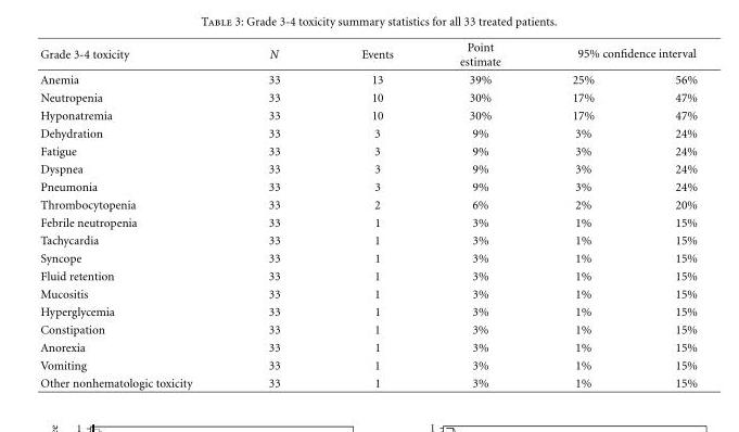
<table><thead><tr><td rowspan="2">Grade 3-4 toxicity Anemia</td><td rowspan="2">N 33</td><td rowspan="2">Events 13</td><td rowspan="2">Point estimate 39%</td><td colspan="2">95% confidence interval</td></tr><tr><td>25%</td><td>56%</td></tr></thead><tbody><tr><td>Neutropenia</td><td>33</td><td>10</td><td>30%</td><td>17%</td><td>47%</td></tr><tr><td>Hyponatremia</td><td>33</td><td>10</td><td>30%</td><td>17%</td><td>47%</td></tr><tr><td>Dehydration</td><td>33</td><td>3</td><td>9%</td><td>3%</td><td>24%</td></tr><tr><td>Fatigue</td><td>33</td><td>3</td><td>9%</td><td>3%</td><td>24%</td></tr><tr><td>Dyspnea</td><td>33</td><td>3</td><td>9%</td><td>3%</td><td>24%</td></tr><tr><td>Pneumonia</td><td>33</td><td>3</td><td>9%</td><td>3%</td><td>24%</td></tr><tr><td>Thrombocytopenia</td><td>33</td><td>2</td><td>6%</td><td>2%</td><td>20%</td></tr><tr><td>Febrile neutropenia</td><td>33</td><td>1</td><td>3%</td><td>1%</td><td>15%</td></tr><tr><td>Tachycardia</td><td>33</td><td>1</td><td>3%</td><td>1%</td><td>15%</td></tr><tr><td>Syncope</td><td>33</td><td>1</td><td>3%</td><td>1%</td><td>15%</td></tr><tr><td>Fluid retention</td><td>33</td><td>1</td><td>3%</td><td>1%</td><td>15%</td></tr><tr><td>Mucositis</td><td>33</td><td>1</td><td>3%</td><td>1%</td><td>15%</td></tr><tr><td>Hyperglycemia</td><td>33</td><td>1</td><td>3%</td><td>1%</td><td>15%</td></tr><tr><td>Constipation</td><td>33</td><td>1</td><td>3%</td><td>1%</td><td>15%</td></tr><tr><td>Anorexia</td><td>33</td><td>1</td><td>3%</td><td>1%</td><td>15%</td></tr><tr><td>Vomiting</td><td>33</td><td>1</td><td>3%</td><td>1%</td><td>15%</td></tr><tr><td>Other nonhematologic toxicity</td><td>33</td><td>1</td><td>3%</td><td>1%</td><td>15%</td></tr></tbody></table>